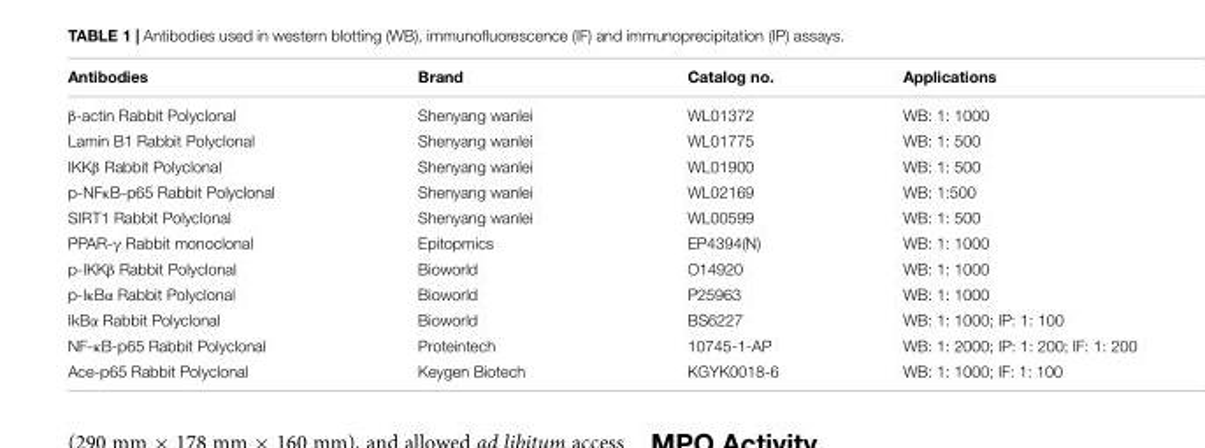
<table><thead><tr><td>Antibodies</td><td>Brand</td><td>Catalog no.</td><td>Applications</td></tr></thead><tbody><tr><td>β-actin Rabbit Polyclonal</td><td>Shenyang wanlei</td><td>WL01372</td><td>WB: 1: 1000</td></tr><tr><td>Lamin B1 Rabbit Polyclonal</td><td>Shenyang wanlei</td><td>WL01775</td><td>WB: 1: 500</td></tr><tr><td>IKKβ Rabbit Polyclonal</td><td>Shenyang wanlei</td><td>WL01900</td><td>WB: 1: 500</td></tr><tr><td>p-NFκB-p65 Rabbit Polyclonal</td><td>Shenyang wanlei</td><td>WL02169</td><td>WB: 1:500</td></tr><tr><td>SIRT1 Rabbit Polyclonal</td><td>Shenyang wanlei</td><td>WL00599</td><td>WB: 1: 500</td></tr><tr><td>PPAR-γ Rabbit monoclonal</td><td>Epitopmics</td><td>EP4394(N)</td><td>WB: 1: 1000</td></tr><tr><td>p-IKKβ Rabbit Polyclonal</td><td>Bioworld</td><td>O14920</td><td>WB: 1: 1000</td></tr><tr><td>p-IκBα Rabbit Polyclonal</td><td>Bioworld</td><td>P25963</td><td>WB: 1: 1000</td></tr><tr><td>IkBα Rabbit Polyclonal</td><td>Bioworld</td><td>BS6227</td><td>WB: 1: 1000; IP: 1: 100</td></tr><tr><td>NF-κB-p65 Rabbit Polyclonal</td><td>Proteintech</td><td>10745-1-AP</td><td>WB: 1: 2000; IP: 1: 200; IF: 1: 200</td></tr><tr><td>Ace-p65 Rabbit Polyclonal</td><td>Keygen Biotech</td><td>KGYK0018-6</td><td>WB: 1: 1000; IF: 1: 100</td></tr></tbody></table>